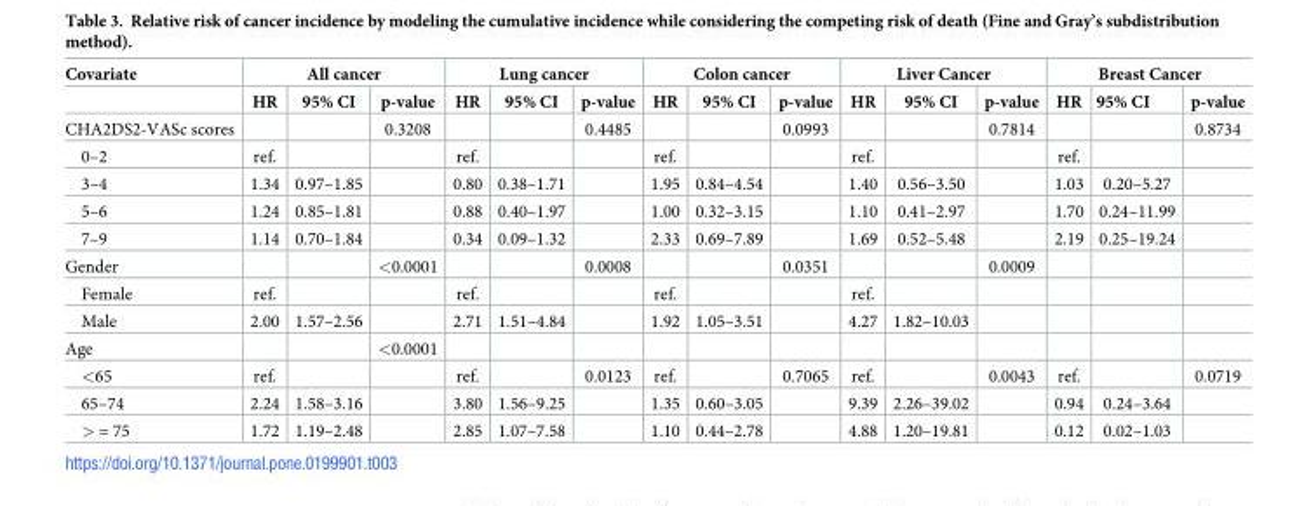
<table><thead><tr><td rowspan="2">Covariate</td><td colspan="3">All cancer</td><td colspan="3">Lung cancer</td><td colspan="3">Colon cancer</td><td colspan="3">Liver Cancer</td><td colspan="3">Breast Cancer</td></tr><tr><td>HR</td><td>95% CI</td><td>p-value</td><td>HR</td><td>95% CI</td><td>p-value</td><td>HR</td><td>95% CI</td><td>p-value</td><td>HR</td><td>95% CI</td><td>p-value</td><td>HR</td><td>95% CI</td><td>p-value</td></tr></thead><tbody><tr><td>CHA2DS2-VASc scores</td><td></td><td></td><td>0.3208</td><td></td><td></td><td>0.4485</td><td></td><td></td><td>0.0993</td><td></td><td></td><td>0.7814</td><td></td><td></td><td>0.8734</td></tr><tr><td>0–2</td><td>ref.</td><td></td><td></td><td>ref.</td><td></td><td></td><td>ref.</td><td></td><td></td><td>ref.</td><td></td><td></td><td>ref.</td><td></td><td></td></tr><tr><td>3–4</td><td>1.34</td><td>0.97–1.85</td><td></td><td>0.80</td><td>0.38–1.71</td><td></td><td>1.95</td><td>0.84–4.54</td><td></td><td>1.40</td><td>0.56–3.50</td><td></td><td>1.03</td><td>0.20–5.27</td><td></td></tr><tr><td>5–6</td><td>1.24</td><td>0.85–1.81</td><td></td><td>0.88</td><td>0.40–1.97</td><td></td><td>1.00</td><td>0.32–3.15</td><td></td><td>1.10</td><td>0.41–2.97</td><td></td><td>1.70</td><td>0.24–11.99</td><td></td></tr><tr><td>7–9</td><td>1.14</td><td>0.70–1.84</td><td></td><td>0.34</td><td>0.09–1.32</td><td></td><td>2.33</td><td>0.69–7.89</td><td></td><td>1.69</td><td>0.52–5.48</td><td></td><td>2.19</td><td>0.25–19.24</td><td></td></tr><tr><td>Gender</td><td></td><td></td><td>&lt;0.0001</td><td></td><td></td><td>0.0008</td><td></td><td></td><td>0.0351</td><td></td><td></td><td>0.0009</td><td></td><td></td><td></td></tr><tr><td>Female</td><td>ref.</td><td></td><td></td><td>ref.</td><td></td><td></td><td>ref.</td><td></td><td></td><td>ref.</td><td></td><td></td><td></td><td></td><td></td></tr><tr><td>Male</td><td>2.00</td><td>1.57–2.56</td><td></td><td>2.71</td><td>1.51–4.84</td><td></td><td>1.92</td><td>1.05–3.51</td><td></td><td>4.27</td><td>1.82–10.03</td><td></td><td></td><td></td><td></td></tr><tr><td>Age</td><td></td><td></td><td>&lt;0.0001</td><td></td><td></td><td></td><td></td><td></td><td></td><td></td><td></td><td></td><td></td><td></td><td></td></tr><tr><td>&lt;65</td><td>ref.</td><td></td><td></td><td>ref.</td><td></td><td>0.0123</td><td>ref.</td><td></td><td>0.7065</td><td>ref.</td><td></td><td>0.0043</td><td>ref.</td><td></td><td>0.0719</td></tr><tr><td>65–74</td><td>2.24</td><td>1.58–3.16</td><td></td><td>3.80</td><td>1.56–9.25</td><td></td><td>1.35</td><td>0.60–3.05</td><td></td><td>9.39</td><td>2.26–39.02</td><td></td><td>0.94</td><td>0.24–3.64</td><td></td></tr><tr><td>&gt; = 75</td><td>1.72</td><td>1.19–2.48</td><td></td><td>2.85</td><td>1.07–7.58</td><td></td><td>1.10</td><td>0.44–2.78</td><td></td><td>4.88</td><td>1.20–19.81</td><td></td><td>0.12</td><td>0.02–1.03</td><td></td></tr></tbody></table>